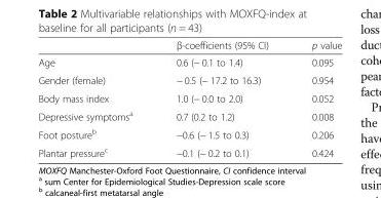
<table><thead><tr><td></td><td>β-coefficients (95% CI)</td><td>p value</td></tr></thead><tbody><tr><td>Age</td><td>0.6 (− 0.1 to 1.4)</td><td>0.095</td></tr><tr><td>Gender (female)</td><td>− 0.5 (− 17.2 to 16.3)</td><td>0.954</td></tr><tr><td>Body mass index</td><td>1.0 (− 0.0 to 2.0)</td><td>0.052</td></tr><tr><td>Depressive symptoms<sup>a</sup></td><td>0.7 (0.2 to 1.2)</td><td>0.008</td></tr><tr><td>Foot posture<sup>b</sup></td><td>−0.6 (− 1.5 to 0.3)</td><td>0.206</td></tr><tr><td>Plantar pressure<sup>c</sup></td><td>−0.1 (− 0.2 to 0.1)</td><td>0.424</td></tr></tbody></table>